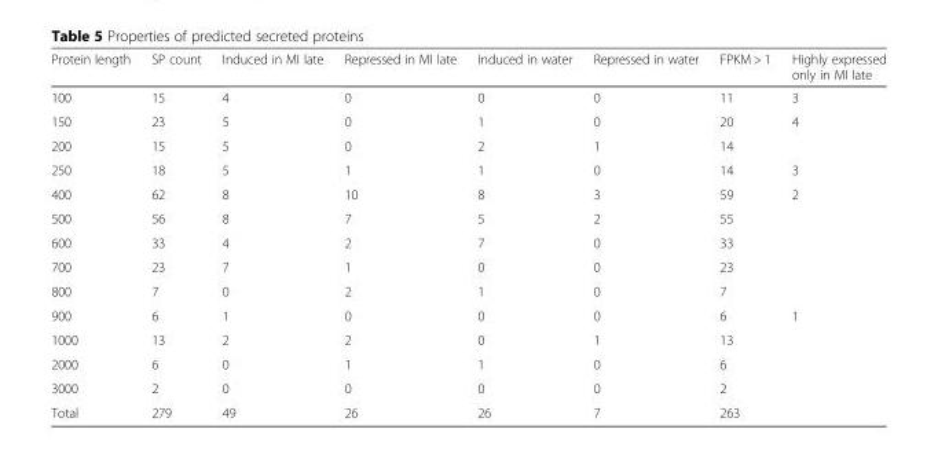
<table><thead><tr><td>Protein length</td><td>SP count</td><td>Induced in MI late</td><td>Repressed in MI late</td><td>Induced in water</td><td>Repressed in water</td><td>FPKM &gt; 1</td><td>Highly expressed only in MI late</td></tr></thead><tbody><tr><td>100</td><td>15</td><td>4</td><td>0</td><td>0</td><td>0</td><td>11</td><td>3</td></tr><tr><td>150</td><td>23</td><td>5</td><td>0</td><td>1</td><td>0</td><td>20</td><td>4</td></tr><tr><td>200</td><td>15</td><td>5</td><td>0</td><td>2</td><td>1</td><td>14</td><td></td></tr><tr><td>250</td><td>18</td><td>5</td><td>1</td><td>1</td><td>0</td><td>14</td><td>3</td></tr><tr><td>400</td><td>62</td><td>8</td><td>10</td><td>8</td><td>3</td><td>59</td><td>2</td></tr><tr><td>500</td><td>56</td><td>8</td><td>7</td><td>5</td><td>2</td><td>55</td><td></td></tr><tr><td>600</td><td>33</td><td>4</td><td>2</td><td>7</td><td>0</td><td>33</td><td></td></tr><tr><td>700</td><td>23</td><td>7</td><td>1</td><td>0</td><td>0</td><td>23</td><td></td></tr><tr><td>800</td><td>7</td><td>0</td><td>2</td><td>1</td><td>0</td><td>7</td><td></td></tr><tr><td>900</td><td>6</td><td>1</td><td>0</td><td>0</td><td>0</td><td>6</td><td>1</td></tr><tr><td>1000</td><td>13</td><td>2</td><td>2</td><td>0</td><td>1</td><td>13</td><td></td></tr><tr><td>2000</td><td>6</td><td>0</td><td>1</td><td>1</td><td>0</td><td>6</td><td></td></tr><tr><td>3000</td><td>2</td><td>0</td><td>0</td><td>0</td><td>0</td><td>2</td><td></td></tr><tr><td>Total</td><td>279</td><td>49</td><td>26</td><td>26</td><td>7</td><td>263</td><td></td></tr></tbody></table>